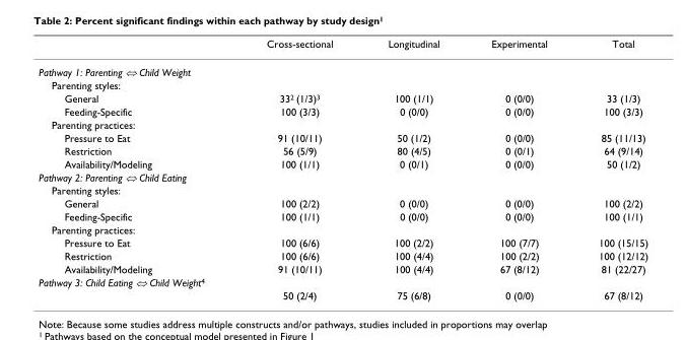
<table><thead><tr><td></td><td>Cross-sectional</td><td>Longitudinal</td><td>Experimental</td><td>Total</td></tr></thead><tbody><tr><td colspan="5">Pathway 1: Parenting ⇔ Child Weight</td></tr><tr><td colspan="5">Parenting styles:</td></tr><tr><td>General</td><td>33<sup>2</sup> (1/3)<sup>3</sup></td><td>100 (1/1)</td><td>0 (0/0)</td><td>33 (1/3)</td></tr><tr><td>Feeding-Specific</td><td>100 (3/3)</td><td>0 (0/0)</td><td>0 (0/0)</td><td>100 (3/3)</td></tr><tr><td colspan="5">Parenting practices:</td></tr><tr><td>Pressure to Eat</td><td>91 (10/11)</td><td>50 (1/2)</td><td>0 (0/0)</td><td>85 (11/13)</td></tr><tr><td>Restriction</td><td>56 (5/9)</td><td>80 (4/5)</td><td>0 (0/1)</td><td>64 (9/14)</td></tr><tr><td>Availability/Modeling</td><td>100 (1/1)</td><td>0 (0/1)</td><td>0 (0/0)</td><td>50 (1/2)</td></tr><tr><td colspan="5">Pathway 2: Parenting ⇔ Child Eating</td></tr><tr><td colspan="5">Parenting styles:</td></tr><tr><td>General</td><td>100 (2/2)</td><td>0 (0/0)</td><td>0 (0/0)</td><td>100 (2/2)</td></tr><tr><td>Feeding-Specific</td><td>100 (1/1)</td><td>0 (0/0)</td><td>0 (0/0)</td><td>100 (1/1)</td></tr><tr><td colspan="5">Parenting practices:</td></tr><tr><td>Pressure to Eat</td><td>100 (6/6)</td><td>100 (2/2)</td><td>100 (7/7)</td><td>100 (15/15)</td></tr><tr><td>Restriction</td><td>100 (6/6)</td><td>100 (4/4)</td><td>100 (2/2)</td><td>100 (12/12)</td></tr><tr><td>Availability/Modeling</td><td>91 (10/11)</td><td>100 (4/4)</td><td>67 (8/12)</td><td>81 (22/27)</td></tr><tr><td colspan="5">Pathway 3: Child Eating ⇔ Child Weight<sup>4</sup></td></tr><tr><td></td><td>50 (2/4)</td><td>75 (6/8)</td><td>0 (0/0)</td><td>67 (8/12)</td></tr></tbody></table>